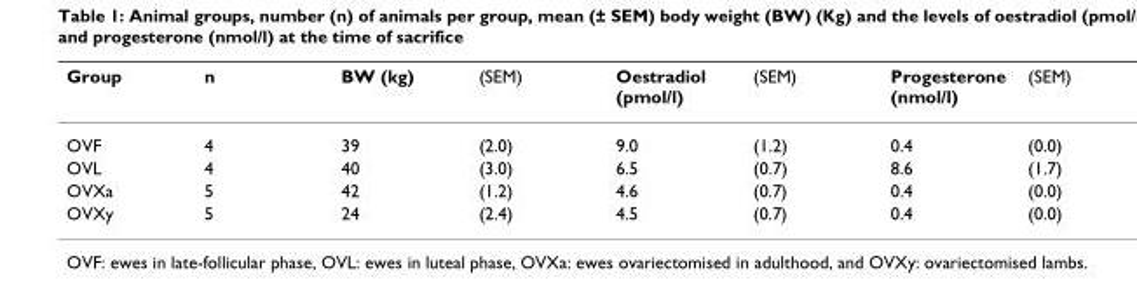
<table><thead><tr><td>Group</td><td>n</td><td>BW (kg)</td><td>(SEM)</td><td>Oestradiol (pmol/l)</td><td>(SEM)</td><td>Progesterone (nmol/l)</td><td>(SEM)</td></tr></thead><tbody><tr><td>OVF</td><td>4</td><td>39</td><td>(2.0)</td><td>9.0</td><td>(1.2)</td><td>0.4</td><td>(0.0)</td></tr><tr><td>OVL</td><td>4</td><td>40</td><td>(3.0)</td><td>6.5</td><td>(0.7)</td><td>8.6</td><td>(1.7)</td></tr><tr><td>OVXa</td><td>5</td><td>42</td><td>(1.2)</td><td>4.6</td><td>(0.7)</td><td>0.4</td><td>(0.0)</td></tr><tr><td>OVXy</td><td>5</td><td>24</td><td>(2.4)</td><td>4.5</td><td>(0.7)</td><td>0.4</td><td>(0.0)</td></tr></tbody></table>